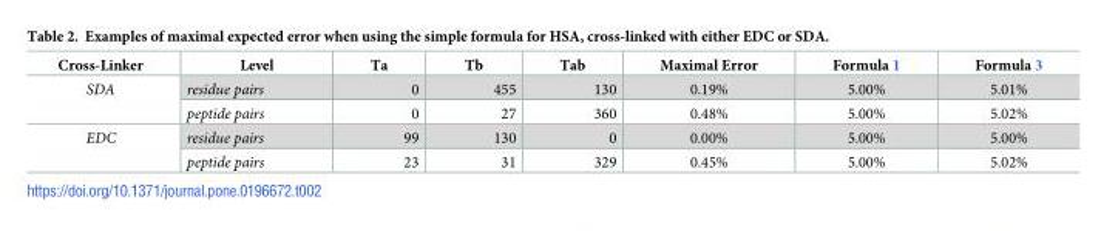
<table><thead><tr><td>Cross-Linker</td><td>Level</td><td>Ta</td><td>Tb</td><td>Tab</td><td>Maximal Error</td><td>Formula 1</td><td>Formula 3</td></tr></thead><tbody><tr><td rowspan="2">SDA</td><td>residue pairs</td><td>0</td><td>455</td><td>130</td><td>0.19%</td><td>5.00%</td><td>5.01%</td></tr><tr><td>peptide pairs</td><td>0</td><td>27</td><td>360</td><td>0.48%</td><td>5.00%</td><td>5.02%</td></tr><tr><td rowspan="2">EDC</td><td>residue pairs</td><td>99</td><td>130</td><td>0</td><td>0.00%</td><td>5.00%</td><td>5.00%</td></tr><tr><td>peptide pairs</td><td>23</td><td>31</td><td>329</td><td>0.45%</td><td>5.00%</td><td>5.02%</td></tr></tbody></table>